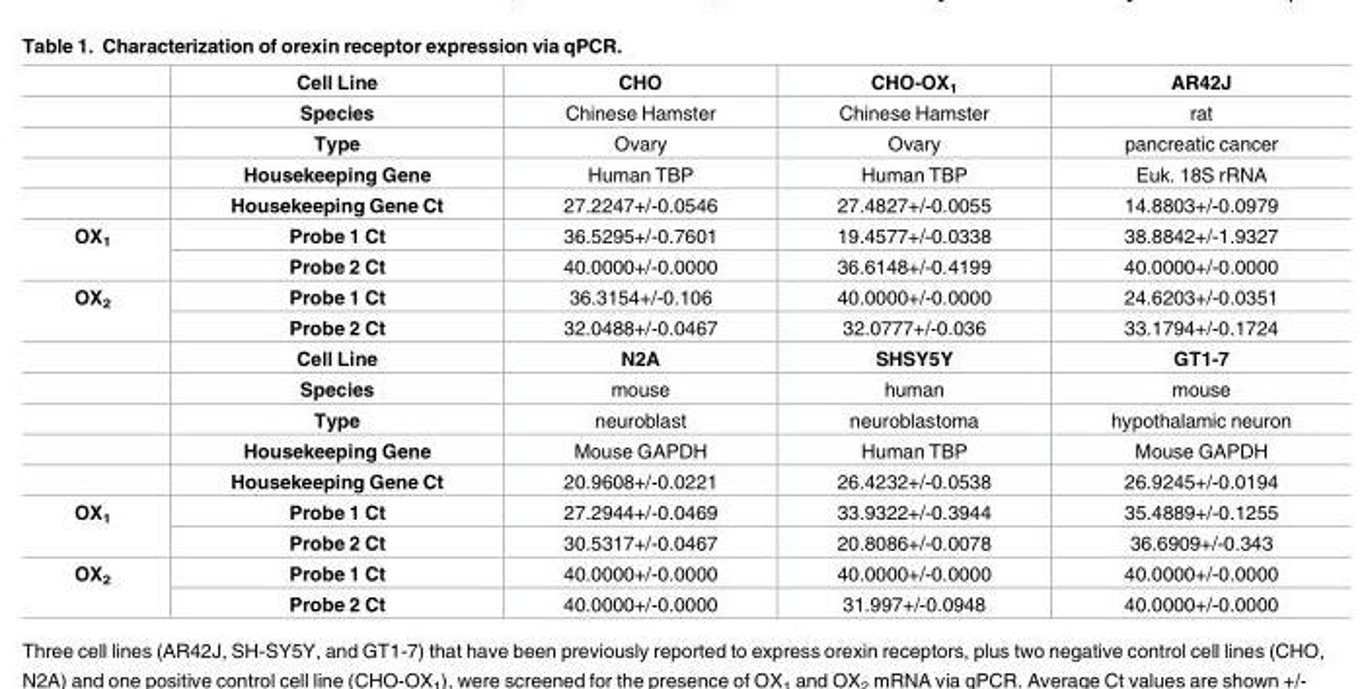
<table><thead><tr><td></td><td>Cell Line</td><td>CHO</td><td>CHO-OX<sub>1</sub></td><td>AR42J</td></tr></thead><tbody><tr><td></td><td>Species</td><td>Chinese Hamster</td><td>Chinese Hamster</td><td>rat</td></tr><tr><td></td><td>Type</td><td>Ovary</td><td>Ovary</td><td>pancreatic cancer</td></tr><tr><td></td><td>Housekeeping Gene</td><td>Human TBP</td><td>Human TBP</td><td>Euk. 18S rRNA</td></tr><tr><td></td><td>Housekeeping Gene Ct</td><td>27.2247+/-0.0546</td><td>27.4827+/-0.0055</td><td>14.8803+/-0.0979</td></tr><tr><td rowspan="2">OX<sub>1</sub></td><td>Probe 1 Ct</td><td>36.5295+/-0.7601</td><td>19.4577+/-0.0338</td><td>38.8842+/-1.9327</td></tr><tr><td>Probe 2 Ct</td><td>40.0000+/-0.0000</td><td>36.6148+/-0.4199</td><td>40.0000+/-0.0000</td></tr><tr><td rowspan="7">OX<sub>2</sub></td><td>Probe 1 Ct</td><td>36.3154+/-0.106</td><td>40.0000+/-0.0000</td><td>24.6203+/-0.0351</td></tr><tr><td>Probe 2 Ct</td><td>32.0488+/-0.0467</td><td>32.0777+/-0.036</td><td>33.1794+/-0.1724</td></tr><tr><td>Cell Line</td><td>N2A</td><td>SHSY5Y</td><td>GT1-7</td></tr><tr><td>Species</td><td>mouse</td><td>human</td><td>mouse</td></tr><tr><td>Type</td><td>neuroblast</td><td>neuroblastoma</td><td>hypothalamic neuron</td></tr><tr><td>Housekeeping Gene</td><td>Mouse GAPDH</td><td>Human TBP</td><td>Mouse GAPDH</td></tr><tr><td>Housekeeping Gene Ct</td><td>20.9608+/-0.0221</td><td>26.4232+/-0.0538</td><td>26.9245+/-0.0194</td></tr><tr><td rowspan="2">OX<sub>1</sub></td><td>Probe 1 Ct</td><td>27.2944+/-0.0469</td><td>33.9322+/-0.3944</td><td>35.4889+/-0.1255</td></tr><tr><td>Probe 2 Ct</td><td>30.5317+/-0.0467</td><td>20.8086+/-0.0078</td><td>36.6909+/-0.343</td></tr><tr><td rowspan="2">OX<sub>2</sub></td><td>Probe 1 Ct</td><td>40.0000+/-0.0000</td><td>40.0000+/-0.0000</td><td>40.0000+/-0.0000</td></tr><tr><td>Probe 2 Ct</td><td>40.0000+/-0.0000</td><td>31.997+/-0.0948</td><td>40.0000+/-0.0000</td></tr></tbody></table>